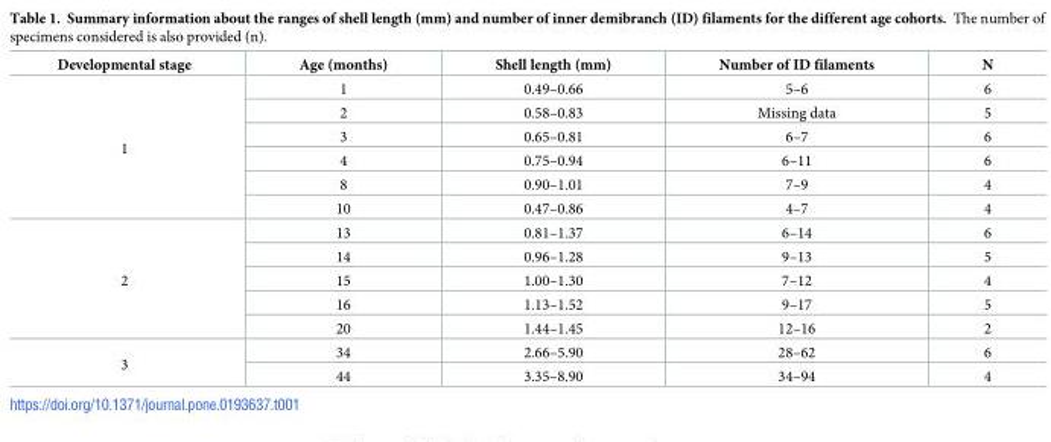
<table><thead><tr><td>Developmental stage</td><td>Age (months)</td><td>Shell length (mm)</td><td>Number of ID filaments</td><td>N</td></tr></thead><tbody><tr><td rowspan="6">1</td><td>1</td><td>0.49–0.66</td><td>5–6</td><td>6</td></tr><tr><td>2</td><td>0.58–0.83</td><td>Missing data</td><td>5</td></tr><tr><td>3</td><td>0.65–0.81</td><td>6–7</td><td>6</td></tr><tr><td>4</td><td>0.75–0.94</td><td>6–11</td><td>6</td></tr><tr><td>8</td><td>0.90–1.01</td><td>7–9</td><td>4</td></tr><tr><td>10</td><td>0.47–0.86</td><td>4–7</td><td>4</td></tr><tr><td rowspan="5">2</td><td>13</td><td>0.81–1.37</td><td>6–14</td><td>6</td></tr><tr><td>14</td><td>0.96–1.28</td><td>9–13</td><td>5</td></tr><tr><td>15</td><td>1.00–1.30</td><td>7–12</td><td>4</td></tr><tr><td>16</td><td>1.13–1.52</td><td>9–17</td><td>5</td></tr><tr><td>20</td><td>1.44–1.45</td><td>12–16</td><td>2</td></tr><tr><td rowspan="2">3</td><td>34</td><td>2.66–5.90</td><td>28–62</td><td>6</td></tr><tr><td>44</td><td>3.35–8.90</td><td>34–94</td><td>4</td></tr></tbody></table>